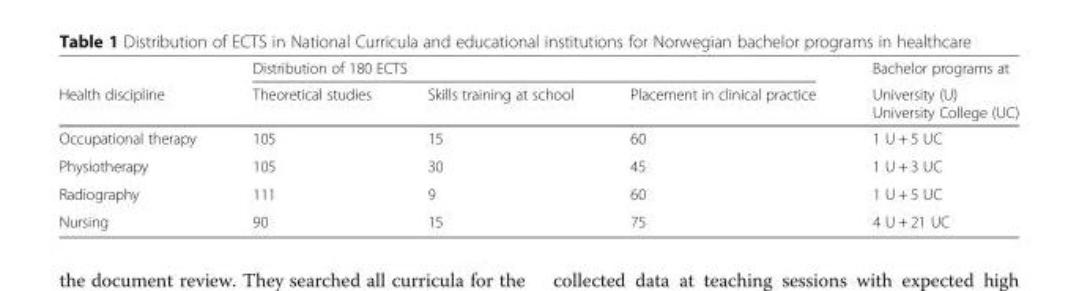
<table><thead><tr><td rowspan="2">Health discipline</td><td colspan="3">Distribution of 180 ECTS</td><td rowspan="2">Bachelor programs at University (U) University College (UC)</td></tr><tr><td>Theoretical studies</td><td>Skills training at school</td><td>Placement in clinical practice</td></tr></thead><tbody><tr><td>Occupational therapy</td><td>105</td><td>15</td><td>60</td><td>1 U + 5 UC</td></tr><tr><td>Physiotherapy</td><td>105</td><td>30</td><td>45</td><td>1 U + 3 UC</td></tr><tr><td>Radiography</td><td>111</td><td>9</td><td>60</td><td>1 U + 5 UC</td></tr><tr><td>Nursing</td><td>90</td><td>15</td><td>75</td><td>4 U + 21 UC</td></tr></tbody></table>